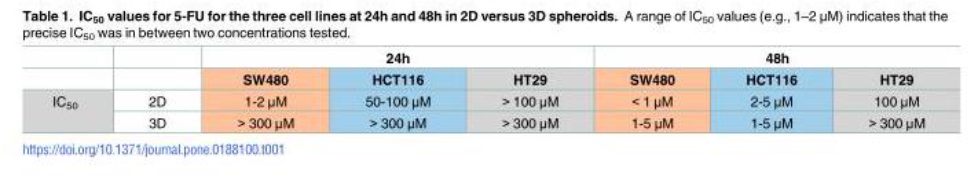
<table><thead><tr><td rowspan="2"></td><td rowspan="2"></td><td colspan="3">24h</td><td colspan="3">48h</td></tr><tr><td>SW480</td><td>HCT116</td><td>HT29</td><td>SW480</td><td>HCT116</td><td>HT29</td></tr></thead><tbody><tr><td rowspan="2">IC<sub>50</sub></td><td>2D</td><td>1-2 μM</td><td>50-100 μM</td><td>&gt; 100 μM</td><td>&lt; 1 μM</td><td>2-5 μM</td><td>100 μM</td></tr><tr><td>3D</td><td>&gt; 300 μM</td><td>&gt; 300 μM</td><td>&gt; 300 μM</td><td>1-5 μM</td><td>1-5 μM</td><td>&gt; 300 μM</td></tr></tbody></table>